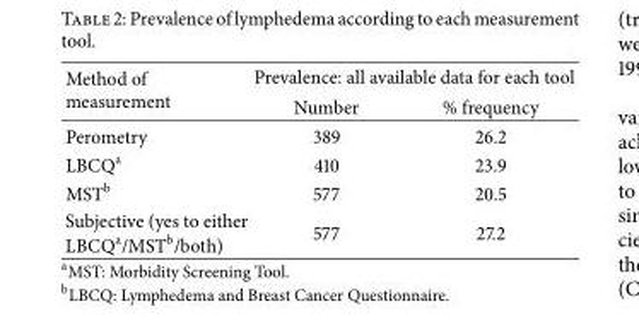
<table><thead><tr><td rowspan="2">Method of measurement</td><td colspan="2">Prevalence: all available data for each tool</td></tr><tr><td>Number</td><td>% frequency</td></tr></thead><tbody><tr><td>Perometry</td><td>389</td><td>26.2</td></tr><tr><td>LBCQ<sup>a</sup></td><td>410</td><td>23.9</td></tr><tr><td>MST<sup>b</sup></td><td>577</td><td>20.5</td></tr><tr><td>Subjective (yes to either LBCQ<sup>a</sup>/MST<sup>b</sup>/both)</td><td>577</td><td>27.2</td></tr></tbody></table>